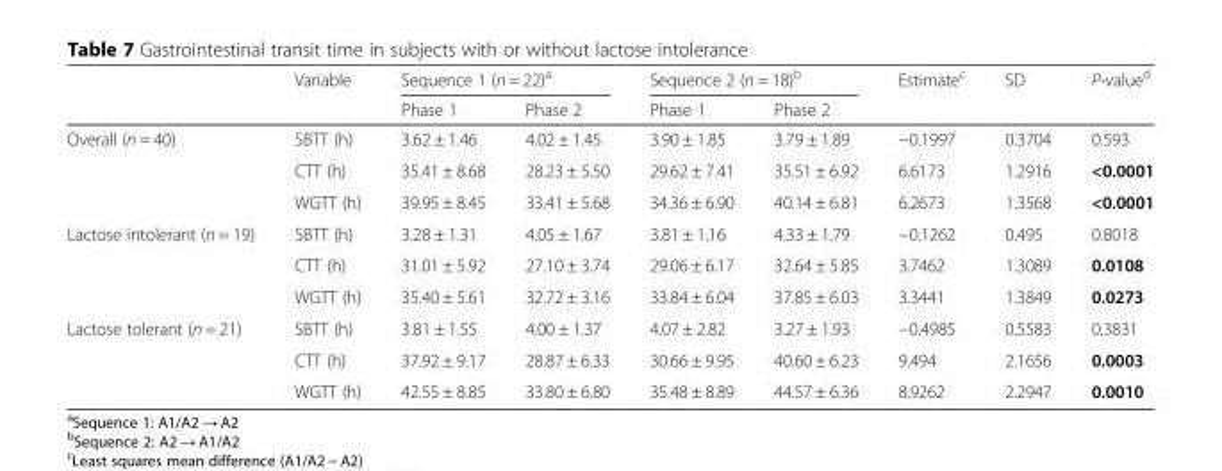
<table><thead><tr><td rowspan="2"></td><td rowspan="2">Variable</td><td colspan="2">Sequence 1 (n = 22)<sup>a</sup></td><td colspan="2">Sequence 2 (n = 18)<sup>b</sup></td><td rowspan="2">Estimate<sup>c</sup></td><td rowspan="2">SD</td><td rowspan="2">P-value<sup>d</sup></td></tr><tr><td>Phase 1</td><td>Phase 2</td><td>Phase 1</td><td>Phase 2</td></tr></thead><tbody><tr><td rowspan="3">Overall (n = 40)</td><td>SBTT (h)</td><td>3.62 ± 1.46</td><td>4.02 ± 1.45</td><td>3.90 ± 1.85</td><td>3.79 ± 1.89</td><td>−0.1997</td><td>0.3704</td><td>0.593</td></tr><tr><td>CTT (h)</td><td>35.41 ± 8.68</td><td>28.23 ± 5.50</td><td>29.62 ± 7.41</td><td>35.51 ± 6.92</td><td>6.6173</td><td>1.2916</td><td>&lt;0.0001</td></tr><tr><td>WGTT (h)</td><td>39.95 ± 8.45</td><td>33.41 ± 5.68</td><td>34.36 ± 6.90</td><td>40.14 ± 6.81</td><td>6.2673</td><td>1.3568</td><td>&lt;0.0001</td></tr><tr><td rowspan="3">Lactose intolerant (n = 19)</td><td>SBTT (h)</td><td>3.28 ± 1.31</td><td>4.05 ± 1.67</td><td>3.81 ± 1.16</td><td>4.33 ± 1.79</td><td>−0.1262</td><td>0.495</td><td>0.8018</td></tr><tr><td>CTT (h)</td><td>31.01 ± 5.92</td><td>27.10 ± 3.74</td><td>29.06 ± 6.17</td><td>32.64 ± 5.85</td><td>3.7462</td><td>1.3089</td><td>0.0108</td></tr><tr><td>WGTT (h)</td><td>35.40 ± 5.61</td><td>32.72 ± 3.16</td><td>33.84 ± 6.04</td><td>37.85 ± 6.03</td><td>3.3441</td><td>1.3849</td><td>0.0273</td></tr><tr><td rowspan="3">Lactose tolerant (n = 21)</td><td>SBTT (h)</td><td>3.81 ± 1.55</td><td>4.00 ± 1.37</td><td>4.07 ± 2.82</td><td>3.27 ± 1.93</td><td>−0.4985</td><td>0.5583</td><td>0.3831</td></tr><tr><td>CTT (h)</td><td>37.92 ± 9.17</td><td>28.87 ± 6.33</td><td>30.66 ± 9.95</td><td>40.60 ± 6.23</td><td>9.494</td><td>2.1656</td><td>0.0003</td></tr><tr><td>WGTT (h)</td><td>42.55 ± 8.85</td><td>33.80 ± 6.80</td><td>35.48 ± 8.89</td><td>44.57 ± 6.36</td><td>8.9262</td><td>2.2947</td><td>0.0010</td></tr></tbody></table>